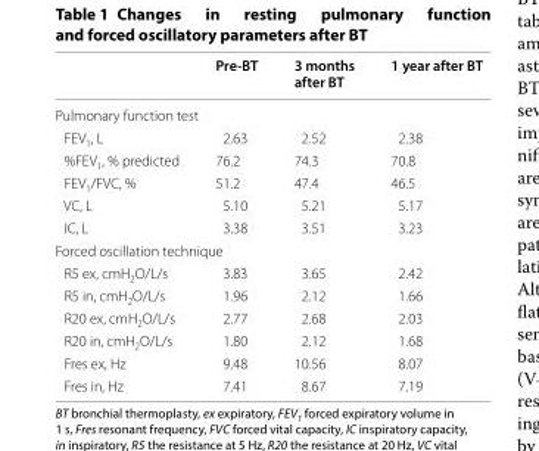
<table><thead><tr><td></td><td>Pre-BT</td><td>3 months after BT</td><td>1 year after BT</td></tr></thead><tbody><tr><td colspan="4">Pulmonary function test</td></tr><tr><td>FEV<sub>1</sub>, L</td><td>2.63</td><td>2.52</td><td>2.38</td></tr><tr><td>%FEV<sub>1</sub>, % predicted</td><td>76.2</td><td>74.3</td><td>70.8</td></tr><tr><td>FEV<sub>1</sub>/FVC, %</td><td>51.2</td><td>47.4</td><td>46.5</td></tr><tr><td>VC, L</td><td>5.10</td><td>5.21</td><td>5.17</td></tr><tr><td>IC, L</td><td>3.38</td><td>3.51</td><td>3.23</td></tr><tr><td colspan="4">Forced oscillation technique</td></tr><tr><td>R5 ex, cmH<sub>2</sub>O/L/s</td><td>3.83</td><td>3.65</td><td>2.42</td></tr><tr><td>R5 in, cmH<sub>2</sub>O/L/s</td><td>1.96</td><td>2.12</td><td>1.66</td></tr><tr><td>R20 ex, cmH<sub>2</sub>O/L/s</td><td>2.77</td><td>2.68</td><td>2.03</td></tr><tr><td>R20 in, cmH<sub>2</sub>O/L/s</td><td>1.80</td><td>2.12</td><td>1.68</td></tr><tr><td>Fres ex, Hz</td><td>9.48</td><td>10.56</td><td>8.07</td></tr><tr><td>Fres in, Hz</td><td>7.41</td><td>8.67</td><td>7.19</td></tr></tbody></table>